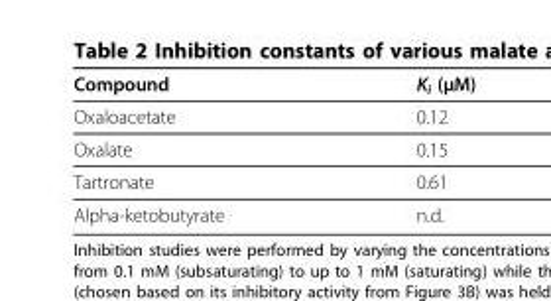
<table><thead><tr><td>Compound</td><td>K<sub>i</sub> (μM)</td></tr></thead><tbody><tr><td>Oxaloacetate</td><td>0.12</td></tr><tr><td>Oxalate</td><td>0.15</td></tr><tr><td>Tartronate</td><td>0.61</td></tr><tr><td>Alpha-ketobutyrate</td><td>n.d.</td></tr></tbody></table>